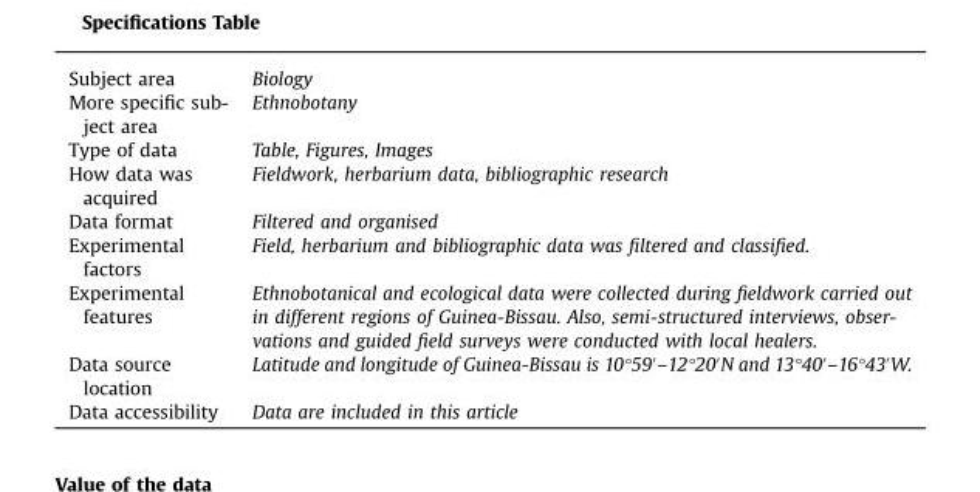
<table><tbody><tr><td>Subject area</td><td>Biology</td></tr><tr><td>More specific sub- ject area</td><td>Ethnobotany</td></tr><tr><td>Type of data</td><td>Table, Figures, Images</td></tr><tr><td>How data was acquired</td><td>Fieldwork, herbarium data, bibliographic research</td></tr><tr><td>Data format</td><td>Filtered and organised</td></tr><tr><td>Experimental factors</td><td>Field, herbarium and bibliographic data was filtered and classified.</td></tr><tr><td>Experimental features</td><td>Ethnobotanical and ecological data were collected during fieldwork carried out in different regions of Guinea-Bissau. Also, semi-structured interviews, obser- vations and guided field surveys were conducted with local healers.</td></tr><tr><td>Data source location</td><td>Latitude and longitude of Guinea-Bissau is 10°59′–12°20′N and 13°40′–16°43′W.</td></tr><tr><td>Data accessibility</td><td>Data are included in this article</td></tr></tbody></table>